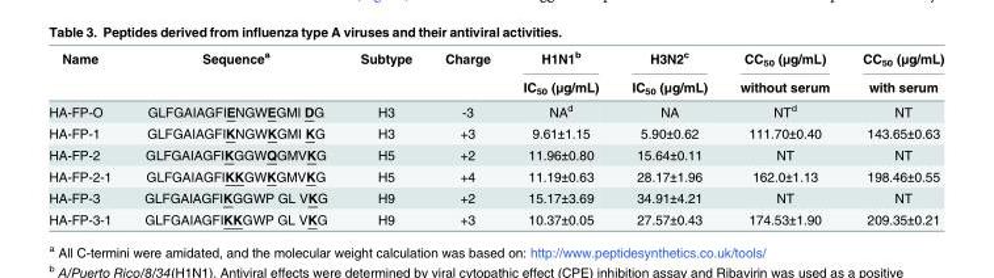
<table><thead><tr><td rowspan="2">Name</td><td rowspan="2">Sequence<sup>a</sup></td><td rowspan="2">Subtype</td><td rowspan="2">Charge</td><td rowspan="2">H1N1<sup>b</sup> IC<sub>50</sub> (μg/mL)</td><td rowspan="2">H3N2<sup>c</sup> IC<sub>50</sub> (μg/mL)</td><td rowspan="2">CC<sub>50</sub> (μg/mL) without serum</td><td rowspan="2">CC<sub>50</sub> (μg/mL) with serum</td></tr><tr></tr></thead><tbody><tr><td>HA-FP-O</td><td>GLFGAIAGFIENGWEGMI DG</td><td>H3</td><td>-3</td><td>NA<sup>d</sup></td><td>NA</td><td>NT<sup>d</sup></td><td>NT</td></tr><tr><td>HA-FP-1</td><td>GLFGAIAGFIKNGWKGMI KG</td><td>H3</td><td>+3</td><td>9.61±1.15</td><td>5.90±0.62</td><td>111.70±0.40</td><td>143.65±0.63</td></tr><tr><td>HA-FP-2</td><td>GLFGAIAGFIKGGWQGMVKG</td><td>H5</td><td>+2</td><td>11.96±0.80</td><td>15.64±0.11</td><td>NT</td><td>NT</td></tr><tr><td>HA-FP-2-1</td><td>GLFGAIAGFIKKGWKGMVKG</td><td>H5</td><td>+4</td><td>11.19±0.63</td><td>28.17±1.96</td><td>162.0±1.13</td><td>198.46±0.55</td></tr><tr><td>HA-FP-3</td><td>GLFGAIAGFIKGGWP GL VKG</td><td>H9</td><td>+2</td><td>15.17±3.69</td><td>34.91±4.21</td><td>NT</td><td>NT</td></tr><tr><td>HA-FP-3-1</td><td>GLFGAIAGFIKKGWP GL VKG</td><td>H9</td><td>+3</td><td>10.37±0.05</td><td>27.57±0.43</td><td>174.53±1.90</td><td>209.35±0.21</td></tr></tbody></table>